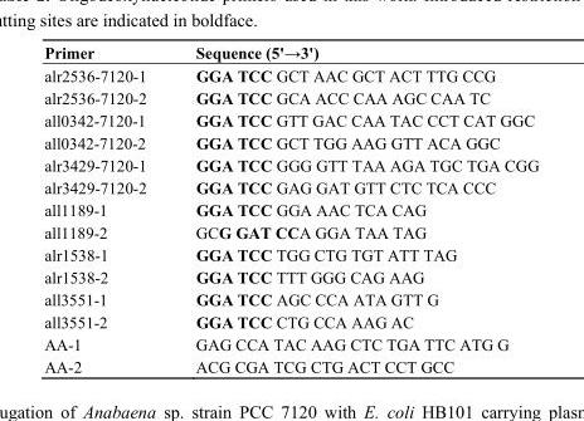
<table><thead><tr><td>Primer</td><td>Sequence (5&#x27;→3&#x27;)</td></tr></thead><tbody><tr><td>alr2536-7120-1</td><td>GGA TCC GCT AAC GCT ACT TTG CCG</td></tr><tr><td>alr2536-7120-2</td><td>GGA TCC GCA ACC CAA AGC CAA TC</td></tr><tr><td>all0342-7120-1</td><td>GGA TCC GTT GAC CAA TAC CCT CAT GGC</td></tr><tr><td>all0342-7120-2</td><td>GGA TCC GCT TGG AAG GTT ACA GGC</td></tr><tr><td>alr3429-7120-1</td><td>GGA TCC GGG GTT TAA AGA TGC TGA CGG</td></tr><tr><td>alr3429-7120-2</td><td>GGA TCC GAG GAT GTT CTC TCA CCC</td></tr><tr><td>all1189-1</td><td>GGA TCC GGA AAC TCA CAG</td></tr><tr><td>all1189-2</td><td>GCG GAT CCA GGA TAA TAG</td></tr><tr><td>alr1538-1</td><td>GGA TCC TGG CTG TGT ATT TAG</td></tr><tr><td>alr1538-2</td><td>GGA TCC TTT GGG CAG AAG</td></tr><tr><td>all3551-1</td><td>GGA TCC AGC CCA ATA GTT G</td></tr><tr><td>all3551-2</td><td>GGA TCC CTG CCA AAG AC</td></tr><tr><td>AA-1</td><td>GAG CCA TAC AAG CTC TGA TTC ATG G</td></tr><tr><td>AA-2</td><td>ACG CGA TCG CTG ACT CCT GCC</td></tr></tbody></table>